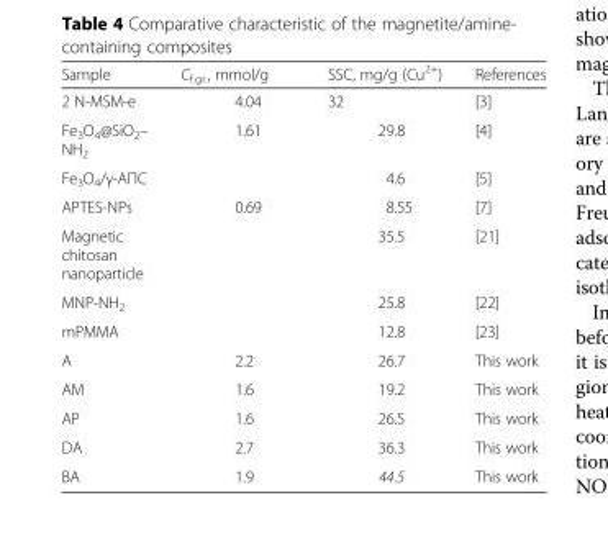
<table><thead><tr><td>Sample</td><td>C<sub>f.gr.</sub>, mmol/g</td><td>SSC, mg/g (Cu<sup>2+</sup>)</td><td>References</td></tr></thead><tbody><tr><td>2 N-MSM-e</td><td>4.04</td><td>32</td><td>[3]</td></tr><tr><td>Fe<sub>3</sub>O<sub>4</sub>@SiO<sub>2</sub>– NH<sub>2</sub></td><td>1.61</td><td>29.8</td><td>[4]</td></tr><tr><td>Fe<sub>3</sub>O<sub>4</sub>/γ-АПС</td><td></td><td>4.6</td><td>[5]</td></tr><tr><td>APTES-NPs</td><td>0.69</td><td>8.55</td><td>[7]</td></tr><tr><td>Magnetic chitosan nanoparticle</td><td></td><td>35.5</td><td>[21]</td></tr><tr><td>MNP-NH<sub>2</sub></td><td></td><td>25.8</td><td>[22]</td></tr><tr><td>mPMMA</td><td></td><td>12.8</td><td>[23]</td></tr><tr><td>A</td><td>2.2</td><td>26.7</td><td>This work</td></tr><tr><td>AM</td><td>1.6</td><td>19.2</td><td>This work</td></tr><tr><td>AP</td><td>1.6</td><td>26.5</td><td>This work</td></tr><tr><td>DA</td><td>2.7</td><td>36.3</td><td>This work</td></tr><tr><td>BA</td><td>1.9</td><td>44.5</td><td>This work</td></tr></tbody></table>